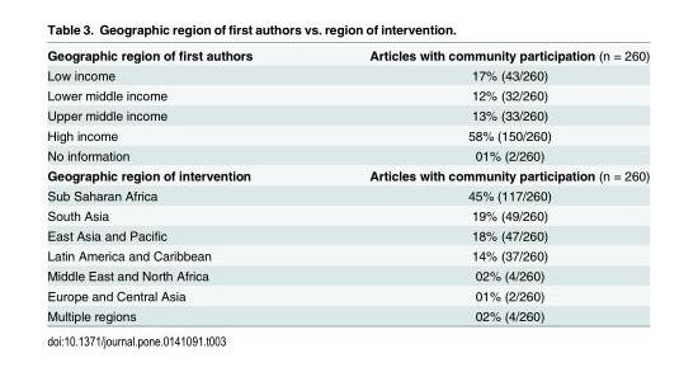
<table><tbody><tr><td>Geographic region of first authors</td><td>Articles with community participation (n = 260)</td></tr><tr><td>Low income</td><td>17% (43/260)</td></tr><tr><td>Lower middle income</td><td>12% (32/260)</td></tr><tr><td>Upper middle income</td><td>13% (33/260)</td></tr><tr><td>High income</td><td>58% (150/260)</td></tr><tr><td>No information</td><td>01% (2/260)</td></tr><tr><td>Geographic region of intervention</td><td>Articles with community participation (n = 260)</td></tr><tr><td>Sub Saharan Africa</td><td>45% (117/260)</td></tr><tr><td>South Asia</td><td>19% (49/260)</td></tr><tr><td>East Asia and Pacific</td><td>18% (47/260)</td></tr><tr><td>Latin America and Caribbean</td><td>14% (37/260)</td></tr><tr><td>Middle East and North Africa</td><td>02% (4/260)</td></tr><tr><td>Europe and Central Asia</td><td>01% (2/260)</td></tr><tr><td>Multiple regions</td><td>02% (4/260)</td></tr></tbody></table>